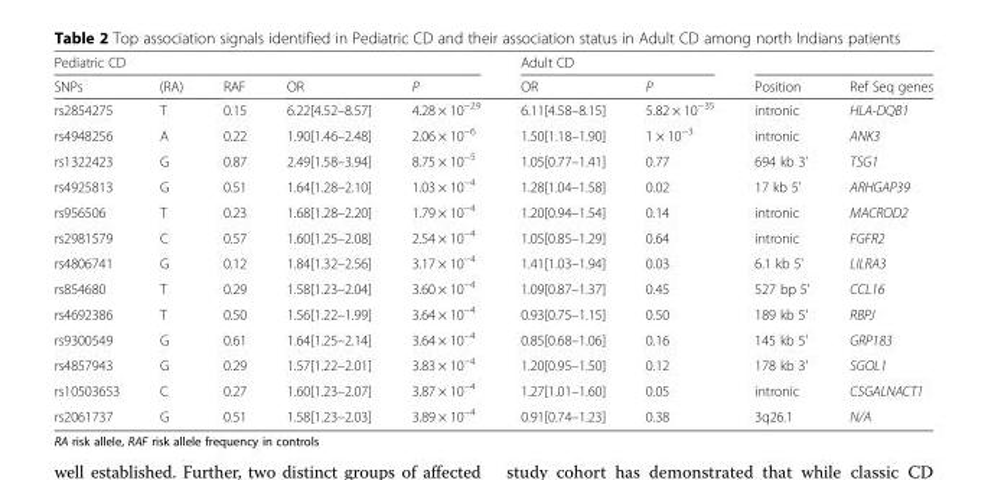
<table><thead><tr><td colspan="5">Pediatric CD</td><td colspan="2">Adult CD</td><td rowspan="2">Position</td><td rowspan="2">Ref Seq genes</td></tr><tr><td>SNPs</td><td>(RA)</td><td>RAF</td><td>OR</td><td>P</td><td>OR</td><td>P</td></tr></thead><tbody><tr><td>rs2854275</td><td>T</td><td>0.15</td><td>6.22[4.52–8.57]</td><td>4.28 × 10<sup>−29</sup></td><td>6.11[4.58–8.15]</td><td>5.82 × 10<sup>−35</sup></td><td>intronic</td><td>HLA-DQB1</td></tr><tr><td>rs4948256</td><td>A</td><td>0.22</td><td>1.90[1.46–2.48]</td><td>2.06 × 10<sup>−6</sup></td><td>1.50[1.18–1.90]</td><td>1 × 10<sup>−3</sup></td><td>intronic</td><td>ANK3</td></tr><tr><td>rs1322423</td><td>G</td><td>0.87</td><td>2.49[1.58–3.94]</td><td>8.75 × 10<sup>−5</sup></td><td>1.05[0.77–1.41]</td><td>0.77</td><td>694 kb 3’</td><td>TSG1</td></tr><tr><td>rs4925813</td><td>G</td><td>0.51</td><td>1.64[1.28–2.10]</td><td>1.03 × 10<sup>−4</sup></td><td>1.28[1.04–1.58]</td><td>0.02</td><td>17 kb 5’</td><td>ARHGAP39</td></tr><tr><td>rs956506</td><td>T</td><td>0.23</td><td>1.68[1.28–2.20]</td><td>1.79 × 10<sup>−4</sup></td><td>1.20[0.94–1.54]</td><td>0.14</td><td>intronic</td><td>MACROD2</td></tr><tr><td>rs2981579</td><td>C</td><td>0.57</td><td>1.60[1.25–2.08]</td><td>2.54 × 10<sup>−4</sup></td><td>1.05[0.85–1.29]</td><td>0.64</td><td>intronic</td><td>FGFR2</td></tr><tr><td>rs4806741</td><td>G</td><td>0.12</td><td>1.84[1.32–2.56]</td><td>3.17 × 10<sup>−4</sup></td><td>1.41[1.03–1.94]</td><td>0.03</td><td>6.1 kb 5&#x27;</td><td>LILRA3</td></tr><tr><td>rs854680</td><td>T</td><td>0.29</td><td>1.58[1.23–2.04]</td><td>3.60 × 10<sup>−4</sup></td><td>1.09[0.87–1.37]</td><td>0.45</td><td>527 bp 5&#x27;</td><td>CCL16</td></tr><tr><td>rs4692386</td><td>T</td><td>0.50</td><td>1.56[1.22–1.99]</td><td>3.64 × 10<sup>−4</sup></td><td>0.93[0.75–1.15]</td><td>0.50</td><td>189 kb 5&#x27;</td><td>RBPJ</td></tr><tr><td>rs9300549</td><td>G</td><td>0.61</td><td>1.64[1.25–2.14]</td><td>3.64 × 10<sup>−4</sup></td><td>0.85[0.68–1.06]</td><td>0.16</td><td>145 kb 5&#x27;</td><td>GRP183</td></tr><tr><td>rs4857943</td><td>G</td><td>0.29</td><td>1.57[1.22–2.01]</td><td>3.83 × 10<sup>−4</sup></td><td>1.20[0.95–1.50]</td><td>0.12</td><td>178 kb 3&#x27;</td><td>SGOL1</td></tr><tr><td>rs10503653</td><td>C</td><td>0.27</td><td>1.60[1.23–2.07]</td><td>3.87 × 10<sup>−4</sup></td><td>1.27[1.01–1.60]</td><td>0.05</td><td>intronic</td><td>CSGALNACT1</td></tr><tr><td>rs2061737</td><td>G</td><td>0.51</td><td>1.58[1.23–2.03]</td><td>3.89 × 10<sup>−4</sup></td><td>0.91[0.74–1.23]</td><td>0.38</td><td>3q26.1</td><td>N/A</td></tr></tbody></table>